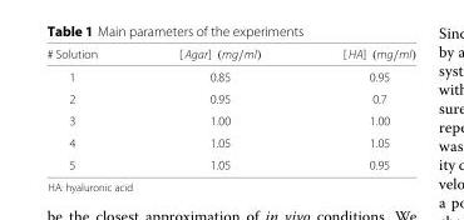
<table><thead><tr><td># Solution</td><td>[ Agar] (mg/ml)</td><td>[ HA] (mg/ml)</td></tr></thead><tbody><tr><td>1</td><td>0.85</td><td>0.95</td></tr><tr><td>2</td><td>0.95</td><td>0.7</td></tr><tr><td>3</td><td>1.00</td><td>1.00</td></tr><tr><td>4</td><td>1.05</td><td>1.05</td></tr><tr><td>5</td><td>1.05</td><td>0.95</td></tr></tbody></table>